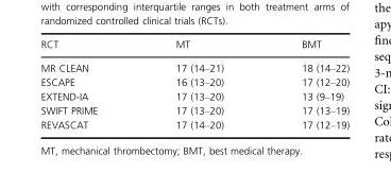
<table><thead><tr><td>RCT</td><td>MT</td><td>BMT</td></tr></thead><tbody><tr><td>MR CLEAN</td><td>17 (14–21)</td><td>18 (14–22)</td></tr><tr><td>ESCAPE</td><td>16 (13–20)</td><td>17 (12–20)</td></tr><tr><td>EXTEND-IA</td><td>17 (13–20)</td><td>13 (9–19)</td></tr><tr><td>SWIFT PRIME</td><td>17 (13–20)</td><td>17 (13–19)</td></tr><tr><td>REVASCAT</td><td>17 (14–20)</td><td>17 (12–19)</td></tr></tbody></table>